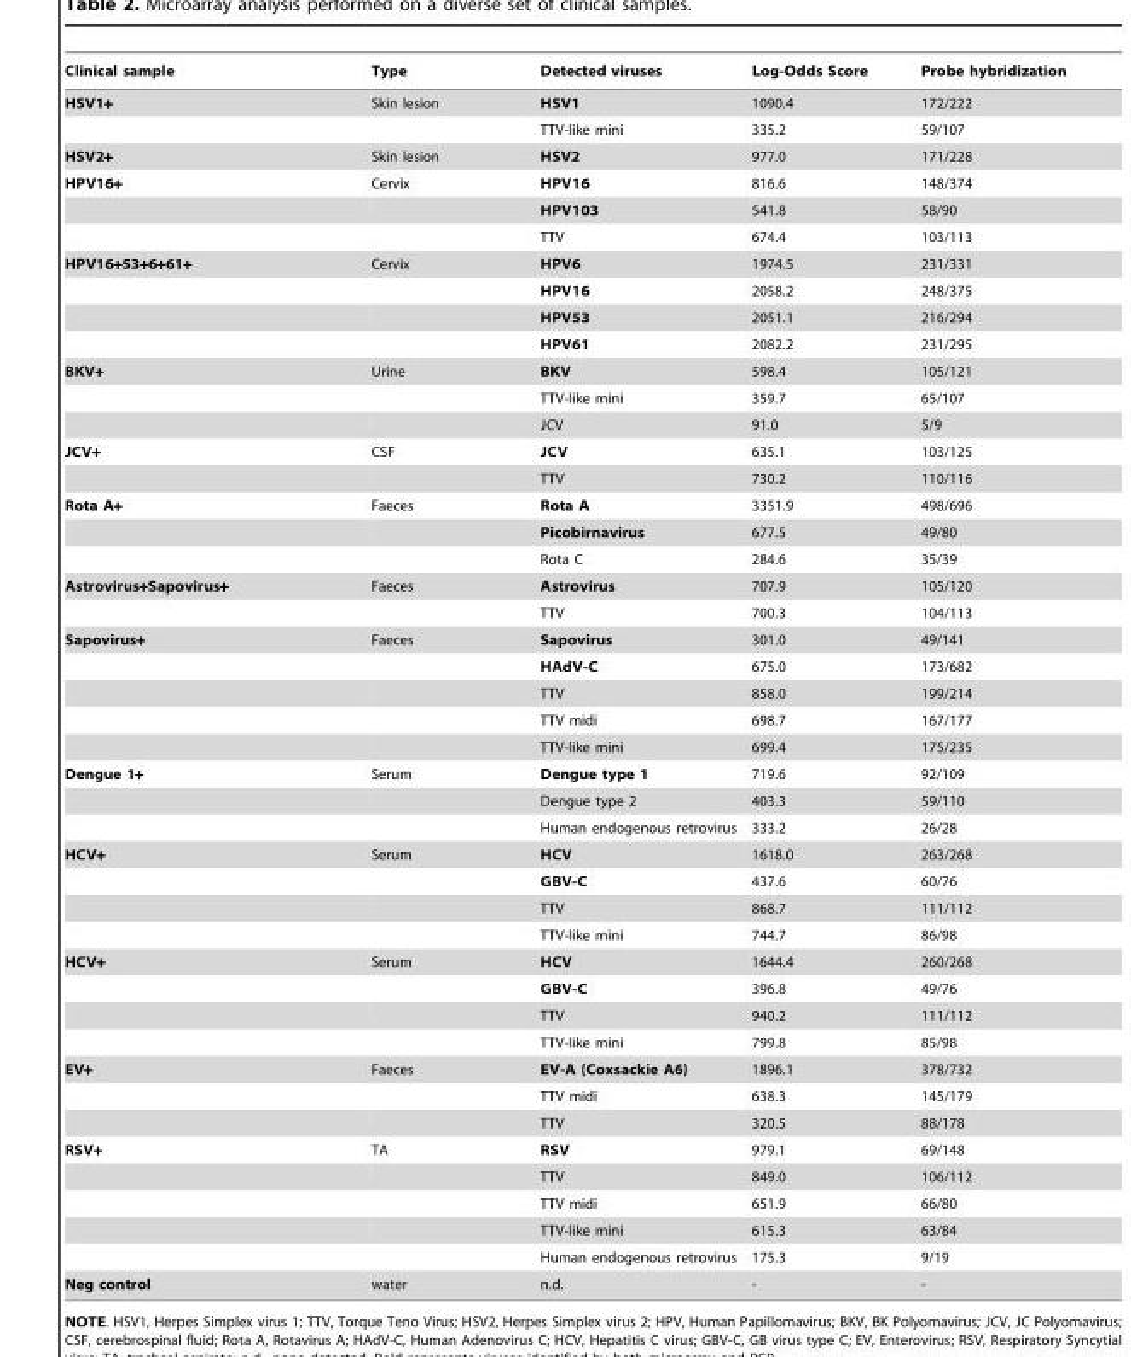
<table><thead><tr><td>Clinical sample</td><td>Type</td><td>Detected viruses</td><td>Log-Odds Score</td><td>Probe hybridization</td></tr></thead><tbody><tr><td rowspan="2">HSV1+</td><td>Skin lesion</td><td>HSV1</td><td>1090.4</td><td>172/222</td></tr><tr><td></td><td>TTV-like mini</td><td>335.2</td><td>59/107</td></tr><tr><td>HSV2+</td><td>Skin lesion</td><td>HSV2</td><td>977.0</td><td>171/228</td></tr><tr><td rowspan="3">HPV16+</td><td>Cervix</td><td>HPV16</td><td>816.6</td><td>148/374</td></tr><tr><td></td><td>HPV103</td><td>541.8</td><td>58/90</td></tr><tr><td></td><td>TTV</td><td>674.4</td><td>103/113</td></tr><tr><td rowspan="4">HPV16+53+6+61+</td><td>Cervix</td><td>HPV6</td><td>1974.5</td><td>231/331</td></tr><tr><td></td><td>HPV16</td><td>2058.2</td><td>248/375</td></tr><tr><td></td><td>HPV53</td><td>2051.1</td><td>216/294</td></tr><tr><td></td><td>HPV61</td><td>2082.2</td><td>231/295</td></tr><tr><td rowspan="3">BKV+</td><td>Urine</td><td>BKV</td><td>598.4</td><td>105/121</td></tr><tr><td></td><td>TTV-like mini</td><td>359.7</td><td>65/107</td></tr><tr><td></td><td>JCV</td><td>91.0</td><td>5/9</td></tr><tr><td rowspan="2">JCV+</td><td>CSF</td><td>JCV</td><td>635.1</td><td>103/125</td></tr><tr><td></td><td>TTV</td><td>730.2</td><td>110/116</td></tr><tr><td rowspan="3">Rota A+</td><td>Faeces</td><td>Rota A</td><td>3351.9</td><td>498/696</td></tr><tr><td></td><td>Picobirnavirus</td><td>677.5</td><td>49/80</td></tr><tr><td></td><td>Rota C</td><td>284.6</td><td>35/39</td></tr><tr><td rowspan="2">Astrovirus+Sapovirus+</td><td>Faeces</td><td>Astrovirus</td><td>707.9</td><td>105/120</td></tr><tr><td></td><td>TTV</td><td>700.3</td><td>104/113</td></tr><tr><td rowspan="5">Sapovirus+</td><td>Faeces</td><td>Sapovirus</td><td>301.0</td><td>49/141</td></tr><tr><td></td><td>HAdV-C</td><td>675.0</td><td>173/682</td></tr><tr><td></td><td>TTV</td><td>858.0</td><td>199/214</td></tr><tr><td></td><td>TTV midi</td><td>698.7</td><td>167/177</td></tr><tr><td></td><td>TTV-like mini</td><td>699.4</td><td>175/235</td></tr><tr><td rowspan="3">Dengue 1+</td><td>Serum</td><td>Dengue type 1</td><td>719.6</td><td>92/109</td></tr><tr><td></td><td>Dengue type 2</td><td>403.3</td><td>59/110</td></tr><tr><td></td><td>Human endogenous retrovirus</td><td>333.2</td><td>26/28</td></tr><tr><td rowspan="4">HCV+</td><td>Serum</td><td>HCV</td><td>1618.0</td><td>263/268</td></tr><tr><td></td><td>GBV-C</td><td>437.6</td><td>60/76</td></tr><tr><td></td><td>TTV</td><td>868.7</td><td>111/112</td></tr><tr><td></td><td>TTV-like mini</td><td>744.7</td><td>86/98</td></tr><tr><td rowspan="4">HCV+</td><td>Serum</td><td>HCV</td><td>1644.4</td><td>260/268</td></tr><tr><td></td><td>GBV-C</td><td>396.8</td><td>49/76</td></tr><tr><td></td><td>TTV</td><td>940.2</td><td>111/112</td></tr><tr><td></td><td>TTV-like mini</td><td>799.8</td><td>85/98</td></tr><tr><td rowspan="3">EV+</td><td>Faeces</td><td>EV-A (Coxsackie A6)</td><td>1896.1</td><td>378/732</td></tr><tr><td></td><td>TTV midi</td><td>638.3</td><td>145/179</td></tr><tr><td></td><td>TTV</td><td>320.5</td><td>88/178</td></tr><tr><td rowspan="5">RSV+</td><td>TA</td><td>RSV</td><td>979.1</td><td>69/148</td></tr><tr><td></td><td>TTV</td><td>849.0</td><td>106/112</td></tr><tr><td></td><td>TTV midi</td><td>651.9</td><td>66/80</td></tr><tr><td></td><td>TTV-like mini</td><td>615.3</td><td>63/84</td></tr><tr><td></td><td>Human endogenous retrovirus</td><td>175.3</td><td>9/19</td></tr><tr><td>Neg control</td><td>water</td><td>n.d.</td><td>-</td><td>-</td></tr></tbody></table>